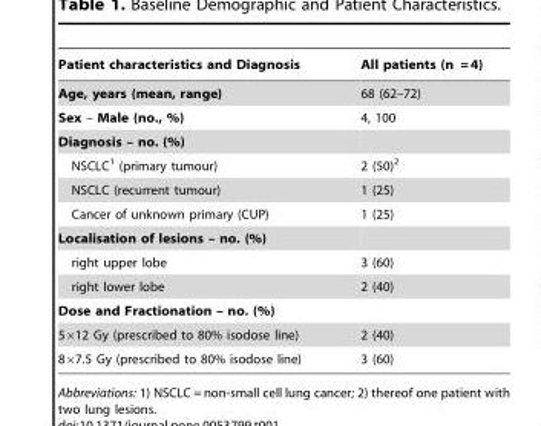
<table><thead><tr><td>Patient characteristics and Diagnosis</td><td>All patients (n = 4)</td></tr></thead><tbody><tr><td>Age, years (mean, range)</td><td>68 (62–72)</td></tr><tr><td>Sex – Male (no., %)</td><td>4, 100</td></tr><tr><td colspan="2">Diagnosis – no. (%)</td></tr><tr><td>NSCLC<sup>1</sup> (primary tumour)</td><td>2 (50)<sup>2</sup></td></tr><tr><td>NSCLC (recurrent tumour)</td><td>1 (25)</td></tr><tr><td>Cancer of unknown primary (CUP)</td><td>1 (25)</td></tr><tr><td colspan="2">Localisation of lesions – no. (%)</td></tr><tr><td>right upper lobe</td><td>3 (60)</td></tr><tr><td>right lower lobe</td><td>2 (40)</td></tr><tr><td colspan="2">Dose and Fractionation – no. (%)</td></tr><tr><td>5×12 Gy (prescribed to 80% isodose line)</td><td>2 (40)</td></tr><tr><td>8×7.5 Gy (prescribed to 80% isodose line)</td><td>3 (60)</td></tr></tbody></table>